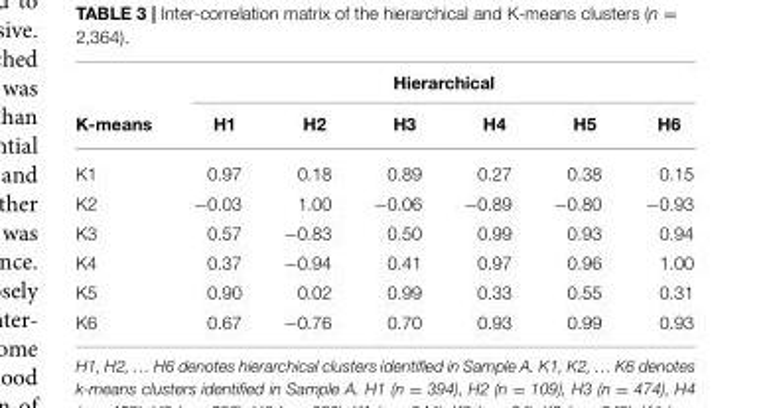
<table><thead><tr><td rowspan="2">K-means</td><td colspan="6">Hierarchical</td></tr><tr><td>H1</td><td>H2</td><td>H3</td><td>H4</td><td>H5</td><td>H6</td></tr></thead><tbody><tr><td>K1</td><td>0.97</td><td>0.18</td><td>0.89</td><td>0.27</td><td>0.38</td><td>0.15</td></tr><tr><td>K2</td><td>−0.03</td><td>1.00</td><td>−0.06</td><td>−0.89</td><td>−0.80</td><td>−0.93</td></tr><tr><td>K3</td><td>0.57</td><td>−0.83</td><td>0.50</td><td>0.99</td><td>0.93</td><td>0.94</td></tr><tr><td>K4</td><td>0.37</td><td>−0.94</td><td>0.41</td><td>0.97</td><td>0.96</td><td>1.00</td></tr><tr><td>K5</td><td>0.90</td><td>0.02</td><td>0.99</td><td>0.33</td><td>0.55</td><td>0.31</td></tr><tr><td>K6</td><td>0.67</td><td>−0.76</td><td>0.70</td><td>0.93</td><td>0.99</td><td>0.93</td></tr></tbody></table>